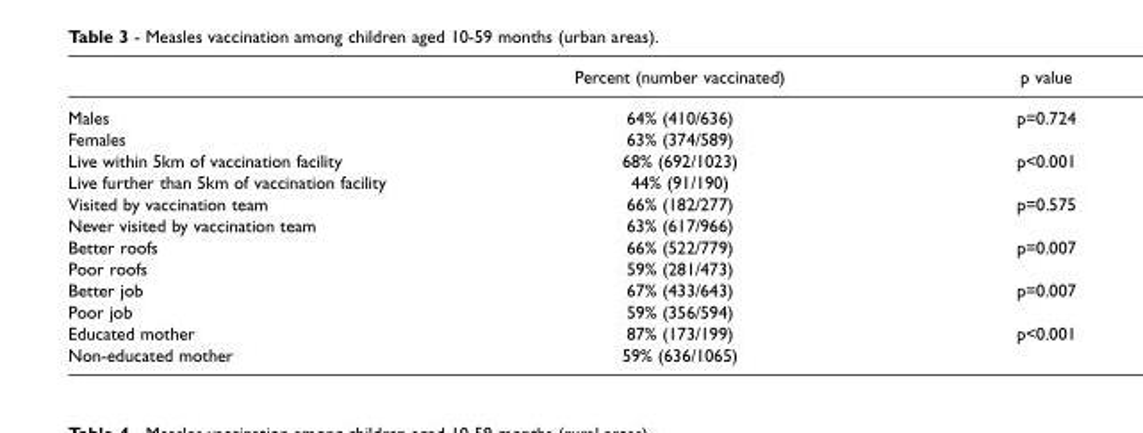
<table><thead><tr><td></td><td>Percent (number vaccinated)</td><td>p value</td></tr></thead><tbody><tr><td>Males</td><td>64% (410/636)</td><td>p=0.724</td></tr><tr><td>Females</td><td>63% (374/589)</td><td></td></tr><tr><td>Live within 5km of vaccination facility</td><td>68% (692/1023)</td><td>p&lt;0.001</td></tr><tr><td>Live further than 5km of vaccination facility</td><td>44% (91/190)</td><td></td></tr><tr><td>Visited by vaccination team</td><td>66% (182/277)</td><td>p=0.575</td></tr><tr><td>Never visited by vaccination team</td><td>63% (617/966)</td><td></td></tr><tr><td>Better roofs</td><td>66% (522/779)</td><td>p=0.007</td></tr><tr><td>Poor roofs</td><td>59% (281/473)</td><td></td></tr><tr><td>Better job</td><td>67% (433/643)</td><td>p=0.007</td></tr><tr><td>Poor job</td><td>59% (356/594)</td><td></td></tr><tr><td>Educated mother</td><td>87% (173/199)</td><td>p&lt;0.001</td></tr><tr><td>Non-educated mother</td><td>59% (636/1065)</td><td></td></tr></tbody></table>